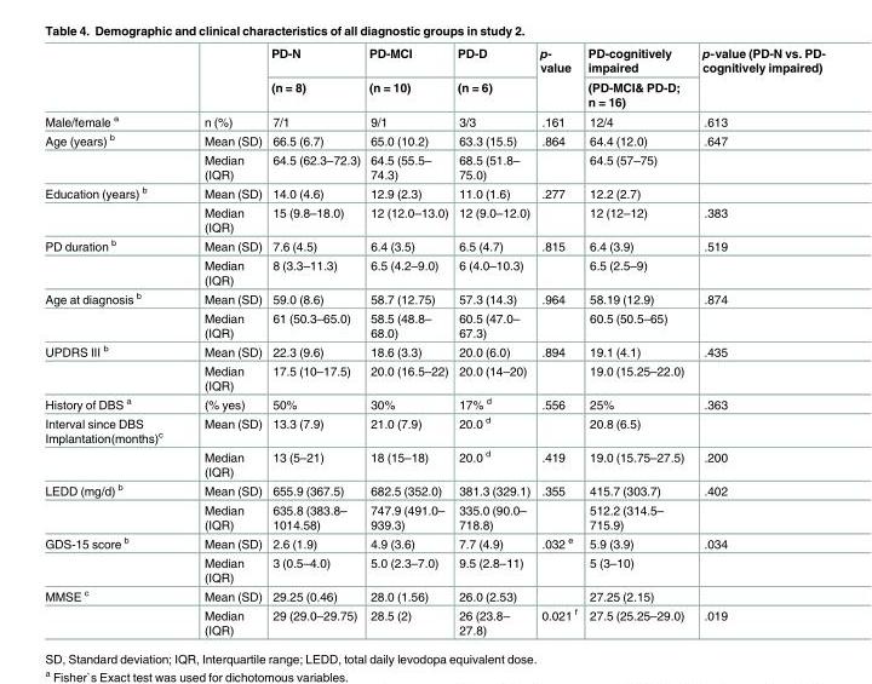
<table><thead><tr><td rowspan="2"></td><td rowspan="2"></td><td rowspan="2">PD-N (n = 8)</td><td rowspan="2">PD-MCI (n = 10)</td><td rowspan="2">PD-D (n = 6)</td><td rowspan="2">p- value</td><td rowspan="2">PD-cognitively impaired (PD-MCI&amp; PD-D; n = 16)</td><td rowspan="2">p-value (PD-N vs. PD- cognitively impaired)</td></tr><tr></tr></thead><tbody><tr><td>Male/female <sup>a</sup></td><td>n (%)</td><td>7/1</td><td>9/1</td><td>3/3</td><td>.161</td><td>12/4</td><td>.613</td></tr><tr><td rowspan="2">Age (years) <sup>b</sup></td><td>Mean (SD)</td><td>66.5 (6.7)</td><td>65.0 (10.2)</td><td>63.3 (15.5)</td><td>.864</td><td>64.4 (12.0)</td><td>.647</td></tr><tr><td>Median (IQR)</td><td>64.5 (62.3–72.3)</td><td>64.5 (55.5– 74.3)</td><td>68.5 (51.8– 75.0)</td><td></td><td>64.5 (57–75)</td><td></td></tr><tr><td rowspan="2">Education (years) <sup>b</sup></td><td>Mean (SD)</td><td>14.0 (4.6)</td><td>12.9 (2.3)</td><td>11.0 (1.6)</td><td>.277</td><td>12.2 (2.7)</td><td></td></tr><tr><td>Median (IQR)</td><td>15 (9.8–18.0)</td><td>12 (12.0–13.0)</td><td>12 (9.0–12.0)</td><td></td><td>12 (12–12)</td><td>.383</td></tr><tr><td rowspan="2">PD duration <sup>b</sup></td><td>Mean (SD)</td><td>7.6 (4.5)</td><td>6.4 (3.5)</td><td>6.5 (4.7)</td><td>.815</td><td>6.4 (3.9)</td><td>.519</td></tr><tr><td>Median (IQR)</td><td>8 (3.3–11.3)</td><td>6.5 (4.2–9.0)</td><td>6 (4.0–10.3)</td><td></td><td>6.5 (2.5–9)</td><td></td></tr><tr><td rowspan="2">Age at diagnosis <sup>b</sup></td><td>Mean (SD)</td><td>59.0 (8.6)</td><td>58.7 (12.75)</td><td>57.3 (14.3)</td><td>.964</td><td>58.19 (12.9)</td><td>.874</td></tr><tr><td>Median (IQR)</td><td>61 (50.3–65.0)</td><td>58.5 (48.8– 68.0)</td><td>60.5 (47.0– 67.3)</td><td></td><td>60.5 (50.5–65)</td><td></td></tr><tr><td rowspan="2">UPDRS III <sup>b</sup></td><td>Mean (SD)</td><td>22.3 (9.6)</td><td>18.6 (3.3)</td><td>20.0 (6.0)</td><td>.894</td><td>19.1 (4.1)</td><td>.435</td></tr><tr><td>Median (IQR)</td><td>17.5 (10–17.5)</td><td>20.0 (16.5–22)</td><td>20.0 (14–20)</td><td></td><td>19.0 (15.25–22.0)</td><td></td></tr><tr><td>History of DBS <sup>a</sup></td><td>(% yes)</td><td>50%</td><td>30%</td><td>17% <sup>d</sup></td><td>.556</td><td>25%</td><td>.363</td></tr><tr><td rowspan="2">Interval since DBS Implantation(months)<sup>c</sup></td><td>Mean (SD)</td><td>13.3 (7.9)</td><td>21.0 (7.9)</td><td>20.0 <sup>d</sup></td><td></td><td>20.8 (6.5)</td><td></td></tr><tr><td>Median (IQR)</td><td>13 (5–21)</td><td>18 (15–18)</td><td>20.0 <sup>d</sup></td><td>.419</td><td>19.0 (15.75–27.5)</td><td>.200</td></tr><tr><td rowspan="2">LEDD (mg/d) <sup>b</sup></td><td>Mean (SD)</td><td>655.9 (367.5)</td><td>682.5 (352.0)</td><td>381.3 (329.1)</td><td>.355</td><td>415.7 (303.7)</td><td>.402</td></tr><tr><td>Median (IQR)</td><td>635.8 (383.8– 1014.58)</td><td>747.9 (491.0– 939.3)</td><td>335.0 (90.0– 718.8)</td><td></td><td>512.2 (314.5– 715.9)</td><td></td></tr><tr><td rowspan="2">GDS-15 score <sup>b</sup></td><td>Mean (SD)</td><td>2.6 (1.9)</td><td>4.9 (3.6)</td><td>7.7 (4.9)</td><td>.032 <sup>e</sup></td><td>5.9 (3.9)</td><td>.034</td></tr><tr><td>Median (IQR)</td><td>3 (0.5–4.0)</td><td>5.0 (2.3–7.0)</td><td>9.5 (2.8–11)</td><td></td><td>5 (3–10)</td><td></td></tr><tr><td rowspan="2">MMSE <sup>c</sup></td><td>Mean (SD)</td><td>29.25 (0.46)</td><td>28.0 (1.56)</td><td>26.0 (2.53)</td><td></td><td>27.25 (2.15)</td><td></td></tr><tr><td>Median (IQR)</td><td>29 (29.0–29.75)</td><td>28.5 (2)</td><td>26 (23.8– 27.8)</td><td>0.021 <sup>f</sup></td><td>27.5 (25.25–29.0)</td><td>.019</td></tr></tbody></table>